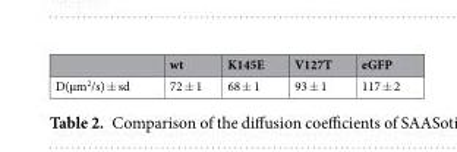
<table><thead><tr><td></td><td>wt</td><td>K145E</td><td>V127T</td><td>eGFP</td></tr></thead><tbody><tr><td>D(µm<sup>2</sup>/s) ± sd</td><td>72 ± 1</td><td>68 ± 1</td><td>93 ± 1</td><td>117 ± 2</td></tr></tbody></table>